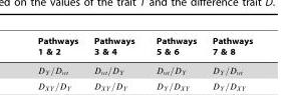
<table><thead><tr><td>Pathways 1 &amp; 2</td><td>Pathways 3 &amp; 4</td><td>Pathways 5 &amp; 6</td><td>Pathways 7 &amp; 8</td></tr></thead><tbody></tbody></table>